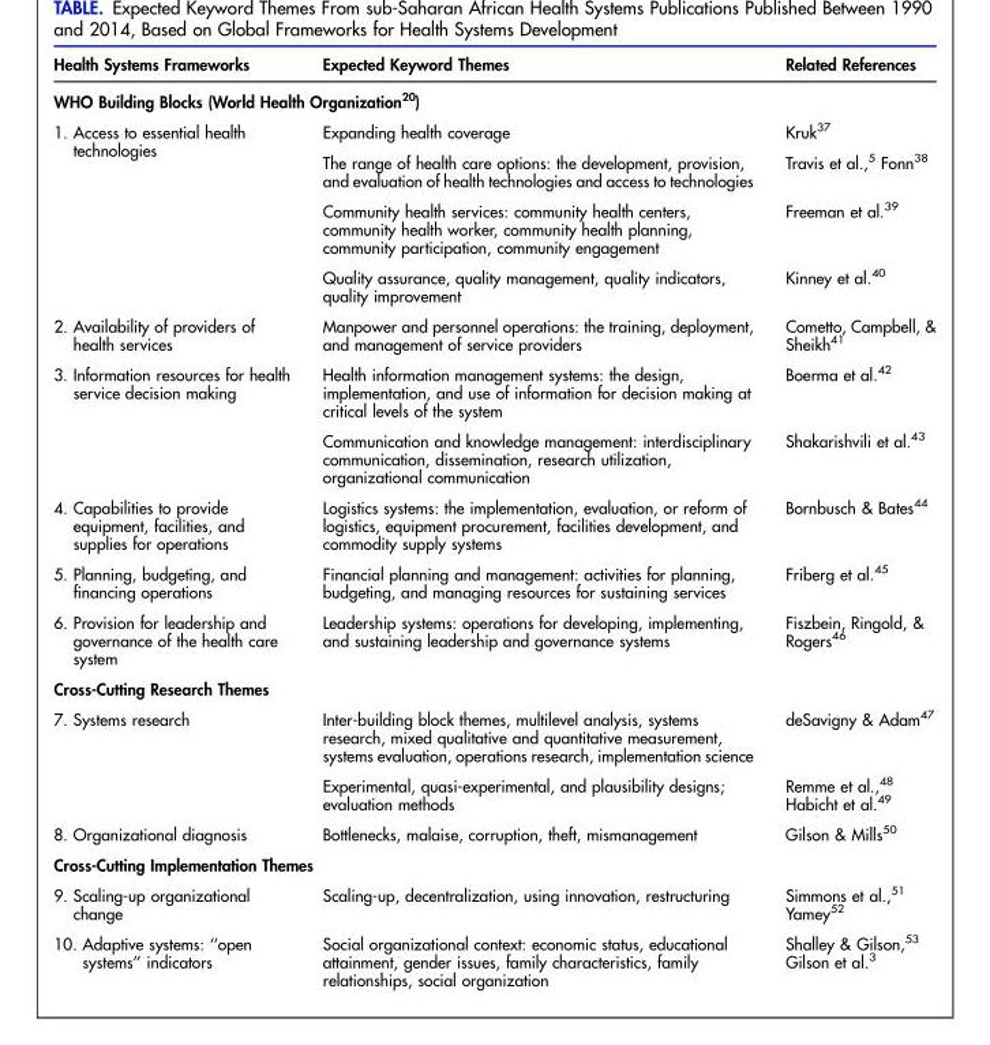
<table><thead><tr><td>Health Systems Frameworks</td><td>Expected Keyword Themes</td><td>Related References</td></tr></thead><tbody><tr><td colspan="3">WHO Building Blocks (World Health Organization<sup>20</sup>)</td></tr><tr><td rowspan="4">1. Access to essential health technologies</td><td>Expanding health coverage</td><td>Kruk<sup>37</sup></td></tr><tr><td>The range of health care options: the development, provision, and evaluation of health technologies and access to technologies</td><td>Travis et al.,<sup>5</sup> Fonn<sup>38</sup></td></tr><tr><td>Community health services: community health centers, community health worker, community health planning, community participation, community engagement</td><td>Freeman et al.<sup>39</sup></td></tr><tr><td>Quality assurance, quality management, quality indicators, quality improvement</td><td>Kinney et al.<sup>40</sup></td></tr><tr><td>2. Availability of providers of health services</td><td>Manpower and personnel operations: the training, deployment, and management of service providers</td><td>Cometto, Campbell, &amp; Sheikh<sup>41</sup></td></tr><tr><td rowspan="2">3. Information resources for health service decision making</td><td>Health information management systems: the design, implementation, and use of information for decision making at critical levels of the system</td><td>Boerma et al.<sup>42</sup></td></tr><tr><td>Communication and knowledge management: interdisciplinary communication, dissemination, research utilization, organizational communication</td><td>Shakarishvili et al.<sup>43</sup></td></tr><tr><td>4. Capabilities to provide equipment, facilities, and supplies for operations</td><td>Logistics systems: the implementation, evaluation, or reform of logistics, equipment procurement, facilities development, and commodity supply systems</td><td>Bornbusch &amp; Bates<sup>44</sup></td></tr><tr><td>5. Planning, budgeting, and financing operations</td><td>Financial planning and management: activities for planning, budgeting, and managing resources for sustaining services</td><td>Friberg et al.<sup>45</sup></td></tr><tr><td>6. Provision for leadership and governance of the health care system</td><td>Leadership systems: operations for developing, implementing, and sustaining leadership and governance systems</td><td>Fiszbein, Ringold, &amp; Rogers<sup>46</sup></td></tr><tr><td colspan="3">Cross-Cutting Research Themes</td></tr><tr><td rowspan="2">7. Systems research</td><td>Inter-building block themes, multilevel analysis, systems research, mixed qualitative and quantitative measurement, systems evaluation, operations research, implementation science</td><td>deSavigny &amp; Adam<sup>47</sup></td></tr><tr><td>Experimental, quasi-experimental, and plausibility designs; evaluation methods</td><td>Remme et al.,<sup>48</sup> Habicht et al.<sup>49</sup></td></tr><tr><td>8. Organizational diagnosis</td><td>Bottlenecks, malaise, corruption, theft, mismanagement</td><td>Gilson &amp; Mills<sup>50</sup></td></tr><tr><td colspan="3">Cross-Cutting Implementation Themes</td></tr><tr><td>9. Scaling-up organizational change</td><td>Scaling-up, decentralization, using innovation, restructuring</td><td>Simmons et al.,<sup>51</sup> Yamey<sup>52</sup></td></tr><tr><td>10. Adaptive systems: ‘‘open systems’’ indicators</td><td>Social organizational context: economic status, educational attainment, gender issues, family characteristics, family relationships, social organization</td><td>Shalley &amp; Gilson,<sup>53</sup> Gilson et al.<sup>3</sup></td></tr></tbody></table>